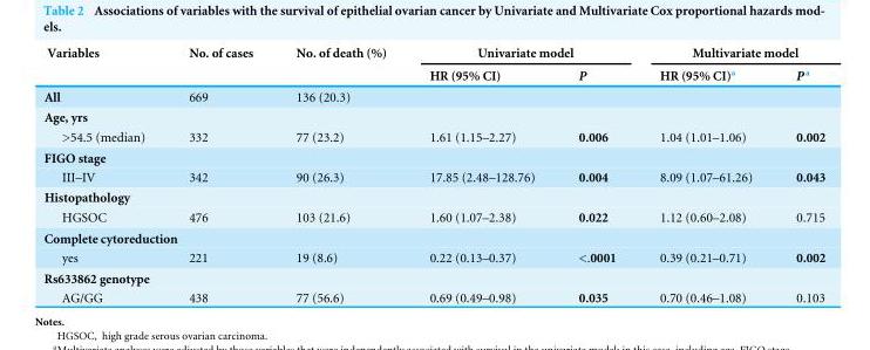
<table><thead><tr><td rowspan="2">Variables</td><td rowspan="2">No. of cases</td><td rowspan="2">No. of death (%)</td><td colspan="2">Univariate model</td><td colspan="2">Multivariate model</td></tr><tr><td>HR (95% CI)</td><td>P</td><td>HR (95% CI)<sup>a</sup></td><td>P<sup>a</sup></td></tr></thead><tbody><tr><td>All</td><td>669</td><td>136 (20.3)</td><td></td><td></td><td></td><td></td></tr><tr><td colspan="7">Age, yrs</td></tr><tr><td>&gt;54.5 (median)</td><td>332</td><td>77 (23.2)</td><td>1.61 (1.15–2.27)</td><td>0.006</td><td>1.04 (1.01–1.06)</td><td>0.002</td></tr><tr><td colspan="7">FIGO stage</td></tr><tr><td>III–IV</td><td>342</td><td>90 (26.3)</td><td>17.85 (2.48–128.76)</td><td>0.004</td><td>8.09 (1.07–61.26)</td><td>0.043</td></tr><tr><td colspan="7">Histopathology</td></tr><tr><td>HGSOC</td><td>476</td><td>103 (21.6)</td><td>1.60 (1.07–2.38)</td><td>0.022</td><td>1.12 (0.60–2.08)</td><td>0.715</td></tr><tr><td colspan="7">Complete cytoreduction</td></tr><tr><td>yes</td><td>221</td><td>19 (8.6)</td><td>0.22 (0.13–0.37)</td><td>&lt;.0001</td><td>0.39 (0.21–0.71)</td><td>0.002</td></tr><tr><td colspan="7">Rs633862 genotype</td></tr><tr><td>AG/GG</td><td>438</td><td>77 (56.6)</td><td>0.69 (0.49–0.98)</td><td>0.035</td><td>0.70 (0.46–1.08)</td><td>0.103</td></tr></tbody></table>